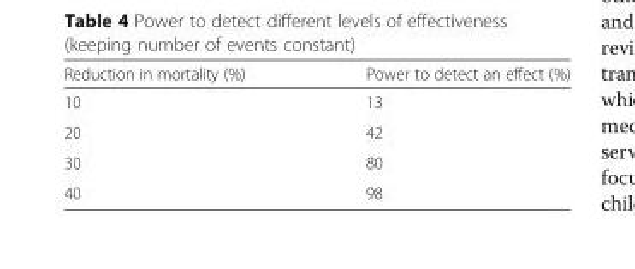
<table><thead><tr><td>Reduction in mortality (%)</td><td>Power to detect an effect (%)</td></tr></thead><tbody><tr><td>10</td><td>13</td></tr><tr><td>20</td><td>42</td></tr><tr><td>30</td><td>80</td></tr><tr><td>40</td><td>98</td></tr></tbody></table>